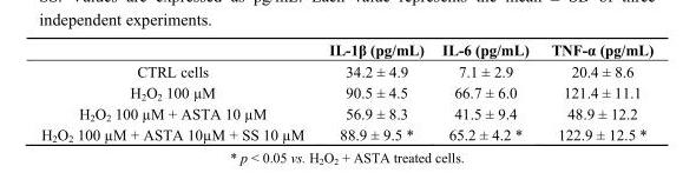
<table><thead><tr><td></td><td>IL-1β (pg/mL)</td><td>IL-6 (pg/mL)</td><td>TNF-α (pg/mL)</td></tr></thead><tbody><tr><td>CTRL cells</td><td>34.2 ± 4.9</td><td>7.1 ± 2.9</td><td>20.4 ± 8.6</td></tr><tr><td>H<sub>2</sub>O<sub>2</sub> 100 µM</td><td>90.5 ± 4.5</td><td>66.7 ± 6.0</td><td>121.4 ± 11.1</td></tr><tr><td>H<sub>2</sub>O<sub>2</sub> 100 µM + ASTA 10 µM</td><td>56.9 ± 8.3</td><td>41.5 ± 9.4</td><td>48.9 ± 12.2</td></tr><tr><td>H<sub>2</sub>O<sub>2</sub> 100 µM + ASTA 10µM + SS 10 µM</td><td>88.9 ± 9.5 *</td><td>65.2 ± 4.2 *</td><td>122.9 ± 12.5 *</td></tr></tbody></table>